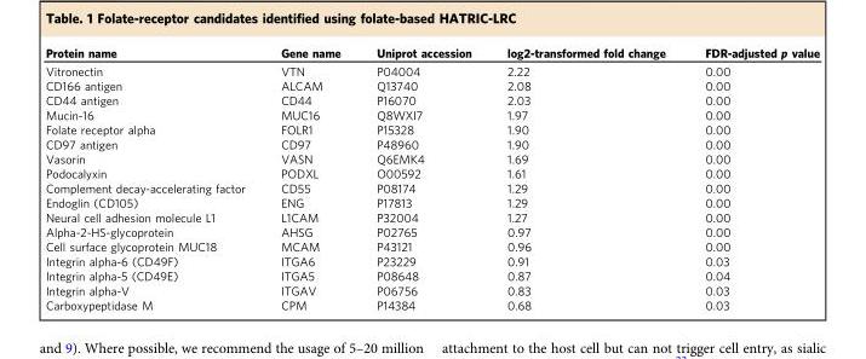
<table><thead><tr><td>Protein name</td><td>Gene name</td><td>Uniprot accession</td><td>log2-transformed fold change</td><td>FDR-adjusted p value</td></tr></thead><tbody><tr><td>Vitronectin</td><td>VTN</td><td>P04004</td><td>2.22</td><td>0.00</td></tr><tr><td>CD166 antigen</td><td>ALCAM</td><td>Q13740</td><td>2.08</td><td>0.00</td></tr><tr><td>CD44 antigen</td><td>CD44</td><td>P16070</td><td>2.03</td><td>0.00</td></tr><tr><td>Mucin-16</td><td>MUC16</td><td>Q8WXI7</td><td>1.97</td><td>0.00</td></tr><tr><td>Folate receptor alpha</td><td>FOLR1</td><td>P15328</td><td>1.90</td><td>0.00</td></tr><tr><td>CD97 antigen</td><td>CD97</td><td>P48960</td><td>1.90</td><td>0.00</td></tr><tr><td>Vasorin</td><td>VASN</td><td>Q6EMK4</td><td>1.69</td><td>0.00</td></tr><tr><td>Podocalyxin</td><td>PODXL</td><td>O00592</td><td>1.61</td><td>0.00</td></tr><tr><td>Complement decay-accelerating factor</td><td>CD55</td><td>P08174</td><td>1.29</td><td>0.00</td></tr><tr><td>Endoglin (CD105)</td><td>ENG</td><td>P17813</td><td>1.29</td><td>0.00</td></tr><tr><td>Neural cell adhesion molecule L1</td><td>L1CAM</td><td>P32004</td><td>1.27</td><td>0.00</td></tr><tr><td>Alpha-2-HS-glycoprotein</td><td>AHSG</td><td>P02765</td><td>0.97</td><td>0.00</td></tr><tr><td>Cell surface glycoprotein MUC18</td><td>MCAM</td><td>P43121</td><td>0.96</td><td>0.00</td></tr><tr><td>Integrin alpha-6 (CD49F)</td><td>ITGA6</td><td>P23229</td><td>0.91</td><td>0.03</td></tr><tr><td>Integrin alpha-5 (CD49E)</td><td>ITGA5</td><td>P08648</td><td>0.87</td><td>0.04</td></tr><tr><td>Integrin alpha-V</td><td>ITGAV</td><td>P06756</td><td>0.83</td><td>0.03</td></tr><tr><td>Carboxypeptidase M</td><td>CPM</td><td>P14384</td><td>0.68</td><td>0.03</td></tr></tbody></table>